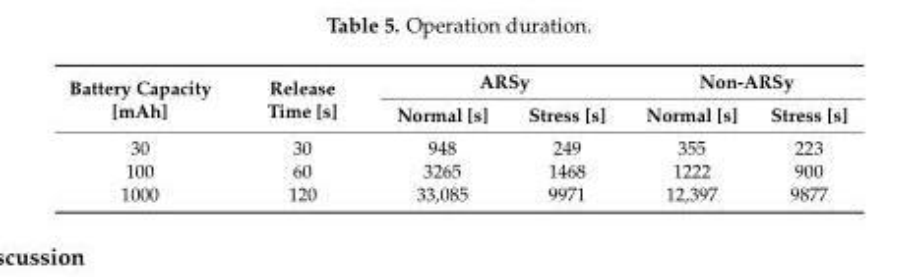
<table><thead><tr><td rowspan="2">Battery Capacity [mAh]</td><td rowspan="2">Release Time [s]</td><td colspan="2">ARSy</td><td colspan="2">Non-ARSy</td></tr><tr><td>Normal [s]</td><td>Stress [s]</td><td>Normal [s]</td><td>Stress [s]</td></tr></thead><tbody><tr><td>30</td><td>30</td><td>948</td><td>249</td><td>355</td><td>223</td></tr><tr><td>100</td><td>60</td><td>3265</td><td>1468</td><td>1222</td><td>900</td></tr><tr><td>1000</td><td>120</td><td>33,085</td><td>9971</td><td>12,397</td><td>9877</td></tr></tbody></table>